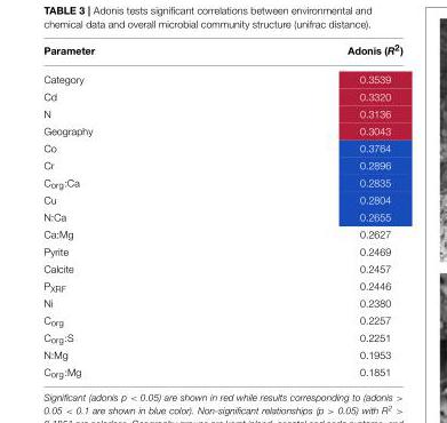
<table><thead><tr><td>Parameter</td><td>Adonis (R<sup>2</sup>)</td></tr></thead><tbody><tr><td>Category</td><td>0.3539</td></tr><tr><td>Cd</td><td>0.3320</td></tr><tr><td>N</td><td>0.3136</td></tr><tr><td>Geography</td><td>0.3043</td></tr><tr><td>Co</td><td>0.3764</td></tr><tr><td>Cr</td><td>0.2896</td></tr><tr><td>C<sub>org</sub>:Ca</td><td>0.2835</td></tr><tr><td>Cu</td><td>0.2804</td></tr><tr><td>N:Ca</td><td>0.2655</td></tr><tr><td>Ca:Mg</td><td>0.2627</td></tr><tr><td>Pyrite</td><td>0.2469</td></tr><tr><td>Calcite</td><td>0.2457</td></tr><tr><td>P<sub>XRF</sub></td><td>0.2446</td></tr><tr><td>Ni</td><td>0.2380</td></tr><tr><td>C<sub>org</sub></td><td>0.2257</td></tr><tr><td>C<sub>org</sub>:S</td><td>0.2251</td></tr><tr><td>N:Mg</td><td>0.1953</td></tr><tr><td>C<sub>org</sub>:Mg</td><td>0.1851</td></tr></tbody></table>